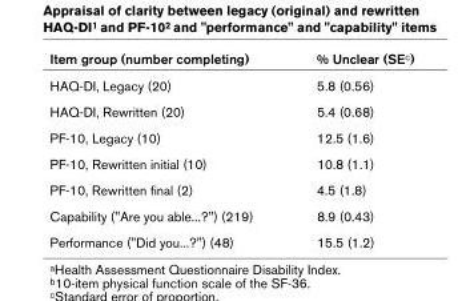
<table><thead><tr><td>Item group (number completing)</td><td>% Unclear (SE<sup>c</sup>)</td></tr></thead><tbody><tr><td>HAQ-DI, Legacy (20)</td><td>5.8 (0.56)</td></tr><tr><td>HAQ-DI, Rewritten (20)</td><td>5.4 (0.68)</td></tr><tr><td>PF-10, Legacy (10)</td><td>12.5 (1.6)</td></tr><tr><td>PF-10, Rewritten initial (10)</td><td>10.8 (1.1)</td></tr><tr><td>PF-10, Rewritten final (2)</td><td>4.5 (1.8)</td></tr><tr><td>Capability (&quot;Are you able...?&quot;) (219)</td><td>8.9 (0.43)</td></tr><tr><td>Performance (&quot;Did you...?&quot;) (48)</td><td>15.5 (1.2)</td></tr></tbody></table>